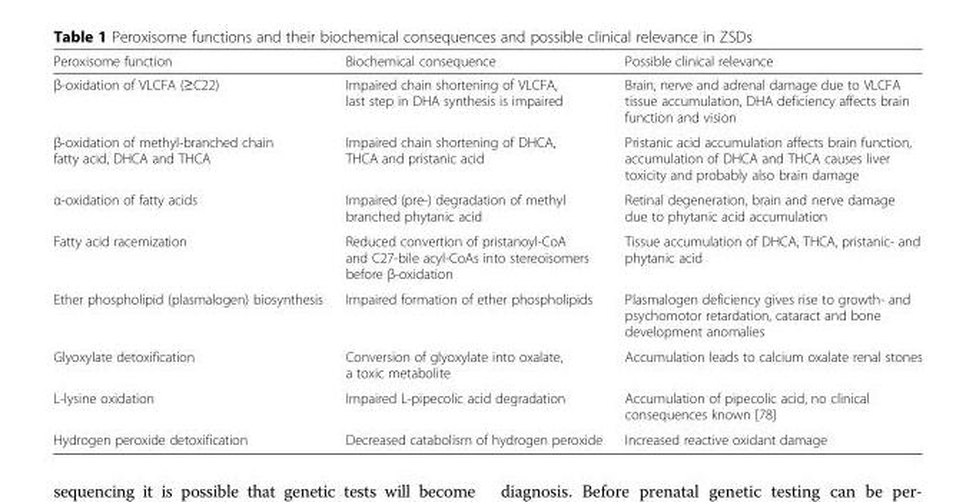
<table><thead><tr><td>Peroxisome function</td><td>Biochemical consequence</td><td>Possible clinical relevance</td></tr></thead><tbody><tr><td>β-oxidation of VLCFA (≥C22)</td><td>Impaired chain shortening of VLCFA, last step in DHA synthesis is impaired</td><td>Brain, nerve and adrenal damage due to VLCFA tissue accumulation, DHA deficiency affects brain function and vision</td></tr><tr><td>β-oxidation of methyl-branched chain fatty acid, DHCA and THCA</td><td>Impaired chain shortening of DHCA, THCA and pristanic acid</td><td>Pristanic acid accumulation affects brain function, accumulation of DHCA and THCA causes liver toxicity and probably also brain damage</td></tr><tr><td>α-oxidation of fatty acids</td><td>Impaired (pre-) degradation of methyl branched phytanic acid</td><td>Retinal degeneration, brain and nerve damage due to phytanic acid accumulation</td></tr><tr><td>Fatty acid racemization</td><td>Reduced convertion of pristanoyl-CoA and C27-bile acyl-CoAs into stereoisomers before β-oxidation</td><td>Tissue accumulation of DHCA, THCA, pristanic- and phytanic acid</td></tr><tr><td>Ether phospholipid (plasmalogen) biosynthesis</td><td>Impaired formation of ether phospholipids</td><td>Plasmalogen deficiency gives rise to growth- and psychomotor retardation, cataract and bone development anomalies</td></tr><tr><td>Glyoxylate detoxification</td><td>Conversion of glyoxylate into oxalate, a toxic metabolite</td><td>Accumulation leads to calcium oxalate renal stones</td></tr><tr><td>L-lysine oxidation</td><td>Impaired L-pipecolic acid degradation</td><td>Accumulation of pipecolic acid, no clinical consequences known [78]</td></tr><tr><td>Hydrogen peroxide detoxification</td><td>Decreased catabolism of hydrogen peroxide</td><td>Increased reactive oxidant damage</td></tr></tbody></table>